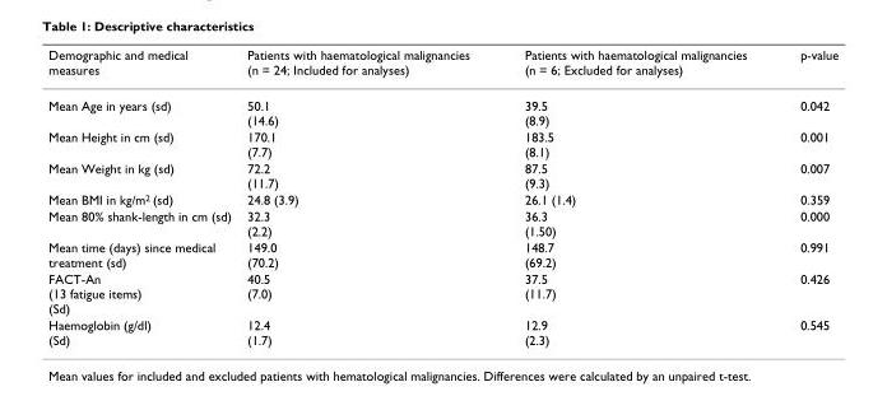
<table><thead><tr><td>Demographic and medical measures</td><td>Patients with haematological malignancies (n = 24; Included for analyses)</td><td>Patients with haematological malignancies (n = 6; Excluded for analyses)</td><td>p-value</td></tr></thead><tbody><tr><td>Mean Age in years (sd)</td><td>50.1 (14.6)</td><td>39.5 (8.9)</td><td>0.042</td></tr><tr><td>Mean Height in cm (sd)</td><td>170.1 (7.7)</td><td>183.5 (8.1)</td><td>0.001</td></tr><tr><td>Mean Weight in kg (sd)</td><td>72.2 (11.7)</td><td>87.5 (9.3)</td><td>0.007</td></tr><tr><td>Mean BMI in kg/m<sup>2</sup> (sd)</td><td>24.8 (3.9)</td><td>26.1 (1.4)</td><td>0.359</td></tr><tr><td>Mean 80% shank-length in cm (sd)</td><td>32.3 (2.2)</td><td>36.3 (1.50)</td><td>0.000</td></tr><tr><td>Mean time (days) since medical treatment (sd)</td><td>149.0 (70.2)</td><td>148.7 (69.2)</td><td>0.991</td></tr><tr><td>FACT-An (13 fatigue items) (Sd)</td><td>40.5 (7.0)</td><td>37.5 (11.7)</td><td>0.426</td></tr><tr><td>Haemoglobin (g/dl) (Sd)</td><td>12.4 (1.7)</td><td>12.9 (2.3)</td><td>0.545</td></tr></tbody></table>